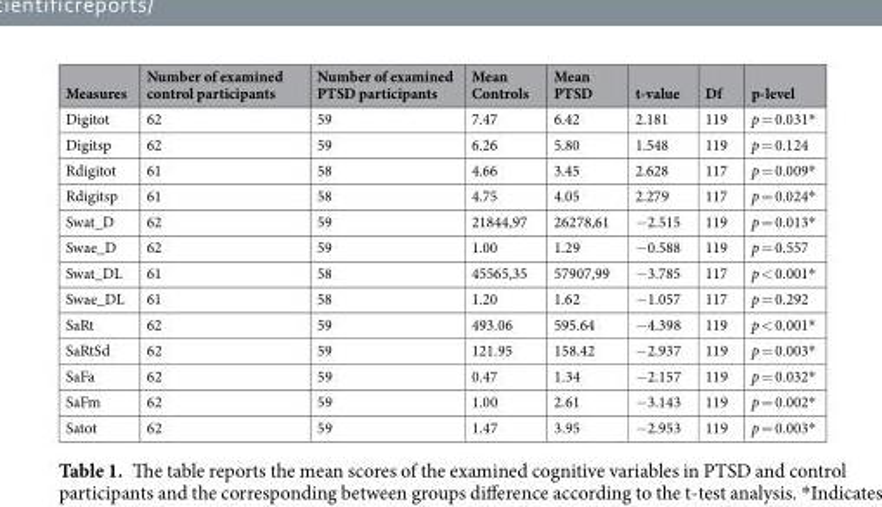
<table><thead><tr><td>Measures</td><td>Number of examined control participants</td><td>Number of examined PTSD participants</td><td>Mean Controls</td><td>Mean PTSD</td><td>t-value</td><td>Df</td><td>p-level</td></tr></thead><tbody><tr><td>Digitot</td><td>62</td><td>59</td><td>7.47</td><td>6.42</td><td>2.181</td><td>119</td><td>p = 0.031*</td></tr><tr><td>Digitsp</td><td>62</td><td>59</td><td>6.26</td><td>5.80</td><td>1.548</td><td>119</td><td>p = 0.124</td></tr><tr><td>Rdigitot</td><td>61</td><td>58</td><td>4.66</td><td>3.45</td><td>2.628</td><td>117</td><td>p = 0.009*</td></tr><tr><td>Rdigitsp</td><td>61</td><td>58</td><td>4.75</td><td>4.05</td><td>2.279</td><td>117</td><td>p = 0.024*</td></tr><tr><td>Swat_D</td><td>62</td><td>59</td><td>21844,97</td><td>26278,61</td><td>−2.515</td><td>119</td><td>p = 0.013*</td></tr><tr><td>Swae_D</td><td>62</td><td>59</td><td>1.00</td><td>1.29</td><td>−0.588</td><td>119</td><td>p = 0.557</td></tr><tr><td>Swat_DL</td><td>61</td><td>58</td><td>45565,35</td><td>57907,99</td><td>−3.785</td><td>117</td><td>p &lt; 0.001*</td></tr><tr><td>Swae_DL</td><td>61</td><td>58</td><td>1.20</td><td>1.62</td><td>−1.057</td><td>117</td><td>p = 0.292</td></tr><tr><td>SaRt</td><td>62</td><td>59</td><td>493.06</td><td>595.64</td><td>−4.398</td><td>119</td><td>p &lt; 0.001*</td></tr><tr><td>SaRtSd</td><td>62</td><td>59</td><td>121.95</td><td>158.42</td><td>−2.937</td><td>119</td><td>p = 0.003*</td></tr><tr><td>SaFa</td><td>62</td><td>59</td><td>0.47</td><td>1.34</td><td>−2.157</td><td>119</td><td>p = 0.032*</td></tr><tr><td>SaFm</td><td>62</td><td>59</td><td>1.00</td><td>2.61</td><td>−3.143</td><td>119</td><td>p = 0.002*</td></tr><tr><td>Satot</td><td>62</td><td>59</td><td>1.47</td><td>3.95</td><td>−2.953</td><td>119</td><td>p = 0.003*</td></tr></tbody></table>